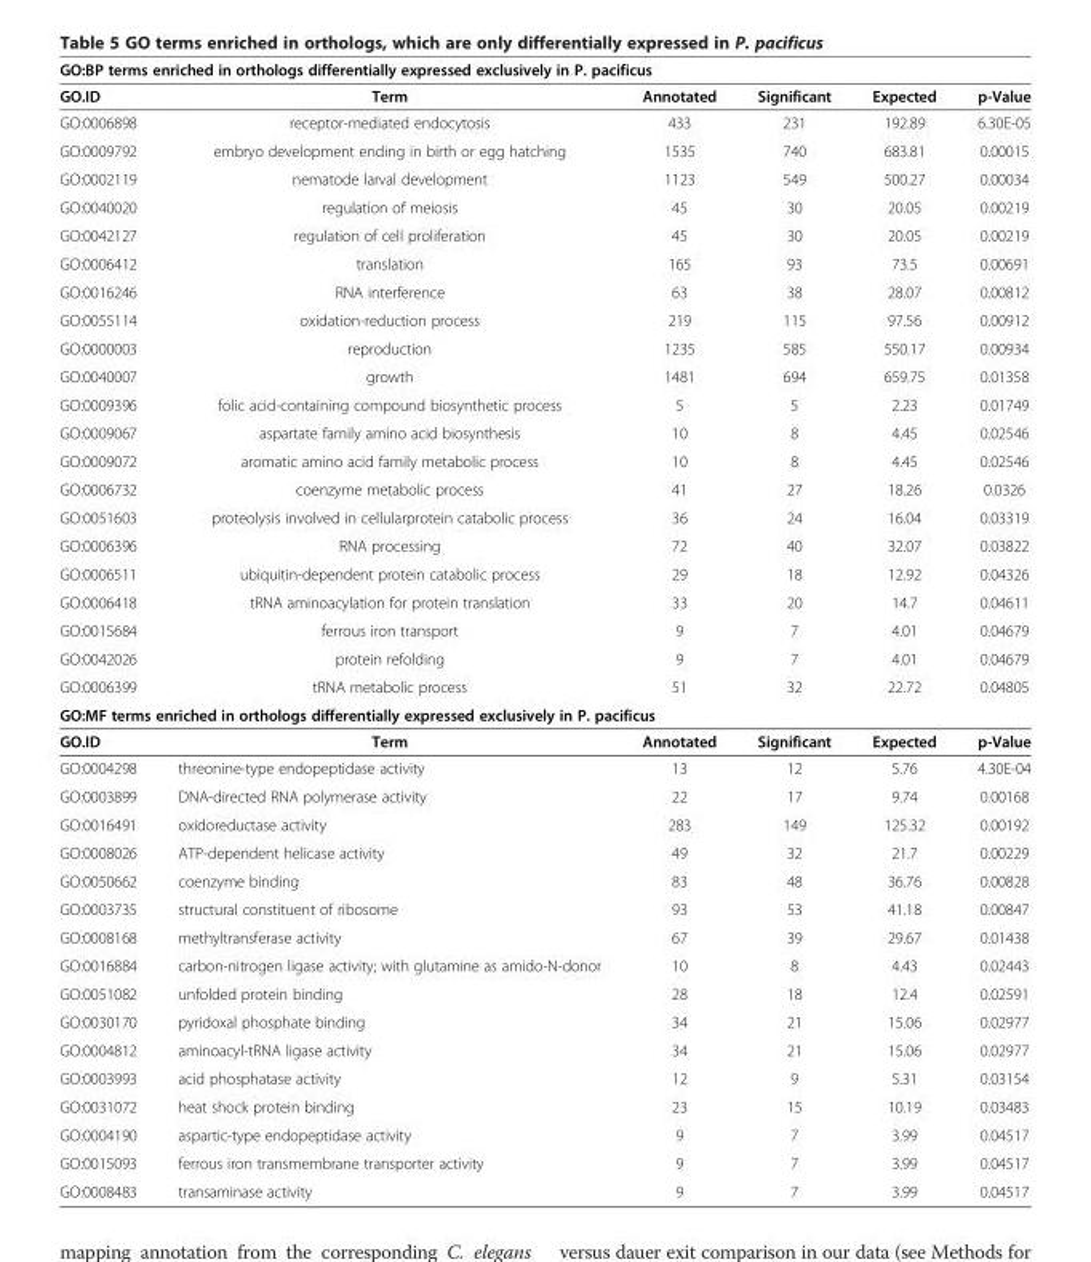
<table><thead><tr><td colspan="6">GO:BP terms enriched in orthologs differentially expressed exclusively in P. pacificus</td></tr><tr><td>GO.ID</td><td>Term</td><td>Annotated</td><td>Significant</td><td>Expected</td><td>p-Value</td></tr></thead><tbody><tr><td>GO:0006898</td><td>receptor-mediated endocytosis</td><td>433</td><td>231</td><td>192.89</td><td>6.30E-05</td></tr><tr><td>GO:0009792</td><td>embryo development ending in birth or egg hatching</td><td>1535</td><td>740</td><td>683.81</td><td>0.00015</td></tr><tr><td>GO:0002119</td><td>nematode larval development</td><td>1123</td><td>549</td><td>500.27</td><td>0.00034</td></tr><tr><td>GO:0040020</td><td>regulation of meiosis</td><td>45</td><td>30</td><td>20.05</td><td>0.00219</td></tr><tr><td>GO:0042127</td><td>regulation of cell proliferation</td><td>45</td><td>30</td><td>20.05</td><td>0.00219</td></tr><tr><td>GO:0006412</td><td>translation</td><td>165</td><td>93</td><td>73.5</td><td>0.00691</td></tr><tr><td>GO:0016246</td><td>RNA interference</td><td>63</td><td>38</td><td>28.07</td><td>0.00812</td></tr><tr><td>GO:0055114</td><td>oxidation-reduction process</td><td>219</td><td>115</td><td>97.56</td><td>0.00912</td></tr><tr><td>GO:0000003</td><td>reproduction</td><td>1235</td><td>585</td><td>550.17</td><td>0.00934</td></tr><tr><td>GO:0040007</td><td>growth</td><td>1481</td><td>694</td><td>659.75</td><td>0.01358</td></tr><tr><td>GO:0009396</td><td>folic acid-containing compound biosynthetic process</td><td>5</td><td>5</td><td>2.23</td><td>0.01749</td></tr><tr><td>GO:0009067</td><td>aspartate family amino acid biosynthesis</td><td>10</td><td>8</td><td>4.45</td><td>0.02546</td></tr><tr><td>GO:0009072</td><td>aromatic amino acid family metabolic process</td><td>10</td><td>8</td><td>4.45</td><td>0.02546</td></tr><tr><td>GO:0006732</td><td>coenzyme metabolic process</td><td>41</td><td>27</td><td>18.26</td><td>0.0326</td></tr><tr><td>GO:0051603</td><td>proteolysis involved in cellularprotein catabolic process</td><td>36</td><td>24</td><td>16.04</td><td>0.03319</td></tr><tr><td>GO:0006396</td><td>RNA processing</td><td>72</td><td>40</td><td>32.07</td><td>0.03822</td></tr><tr><td>GO:0006511</td><td>ubiquitin-dependent protein catabolic process</td><td>29</td><td>18</td><td>12.92</td><td>0.04326</td></tr><tr><td>GO:0006418</td><td>tRNA aminoacylation for protein translation</td><td>33</td><td>20</td><td>14.7</td><td>0.04611</td></tr><tr><td>GO:0015684</td><td>ferrous iron transport</td><td>9</td><td>7</td><td>4.01</td><td>0.04679</td></tr><tr><td>GO:0042026</td><td>protein refolding</td><td>9</td><td>7</td><td>4.01</td><td>0.04679</td></tr><tr><td>GO:0006399</td><td>tRNA metabolic process</td><td>51</td><td>32</td><td>22.72</td><td>0.04805</td></tr><tr><td colspan="6">GO:MF terms enriched in orthologs differentially expressed exclusively in P. pacificus</td></tr><tr><td>GO.ID</td><td>Term</td><td>Annotated</td><td>Significant</td><td>Expected</td><td>p-Value</td></tr><tr><td>GO:0004298</td><td>threonine-type endopeptidase activity</td><td>13</td><td>12</td><td>5.76</td><td>4.30E-04</td></tr><tr><td>GO:0003899</td><td>DNA-directed RNA polymerase activity</td><td>22</td><td>17</td><td>9.74</td><td>0.00168</td></tr><tr><td>GO:0016491</td><td>oxidoreductase activity</td><td>283</td><td>149</td><td>125.32</td><td>0.00192</td></tr><tr><td>GO:0008026</td><td>ATP-dependent helicase activity</td><td>49</td><td>32</td><td>21.7</td><td>0.00229</td></tr><tr><td>GO:0050662</td><td>coenzyme binding</td><td>83</td><td>48</td><td>36.76</td><td>0.00828</td></tr><tr><td>GO:0003735</td><td>structural constituent of ribosome</td><td>93</td><td>53</td><td>41.18</td><td>0.00847</td></tr><tr><td>GO:0008168</td><td>methyltransferase activity</td><td>67</td><td>39</td><td>29.67</td><td>0.01438</td></tr><tr><td>GO:0016884</td><td>carbon-nitrogen ligase activity; with glutamine as amido-N-donor</td><td>10</td><td>8</td><td>4.43</td><td>0.02443</td></tr><tr><td>GO:0051082</td><td>unfolded protein binding</td><td>28</td><td>18</td><td>12.4</td><td>0.02591</td></tr><tr><td>GO:0030170</td><td>pyridoxal phosphate binding</td><td>34</td><td>21</td><td>15.06</td><td>0.02977</td></tr><tr><td>GO:0004812</td><td>aminoacyl-tRNA ligase activity</td><td>34</td><td>21</td><td>15.06</td><td>0.02977</td></tr><tr><td>GO:0003993</td><td>acid phosphatase activity</td><td>12</td><td>9</td><td>5.31</td><td>0.03154</td></tr><tr><td>GO:0031072</td><td>heat shock protein binding</td><td>23</td><td>15</td><td>10.19</td><td>0.03483</td></tr><tr><td>GO:0004190</td><td>aspartic-type endopeptidase activity</td><td>9</td><td>7</td><td>3.99</td><td>0.04517</td></tr><tr><td>GO:0015093</td><td>ferrous iron transmembrane transporter activity</td><td>9</td><td>7</td><td>3.99</td><td>0.04517</td></tr><tr><td>GO:0008483</td><td>transaminase activity</td><td>9</td><td>7</td><td>3.99</td><td>0.04517</td></tr></tbody></table>